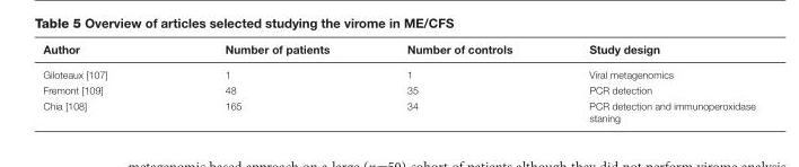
<table><thead><tr><td>Author</td><td>Number of patients</td><td>Number of controls</td><td>Study design</td></tr></thead><tbody><tr><td>Giloteaux [107]</td><td>1</td><td>1</td><td>Viral metagenomics</td></tr><tr><td>Fremont [109]</td><td>48</td><td>35</td><td>PCR detection</td></tr><tr><td>Chia [108]</td><td>165</td><td>34</td><td>PCR detection and immunoperoxidase staning</td></tr></tbody></table>